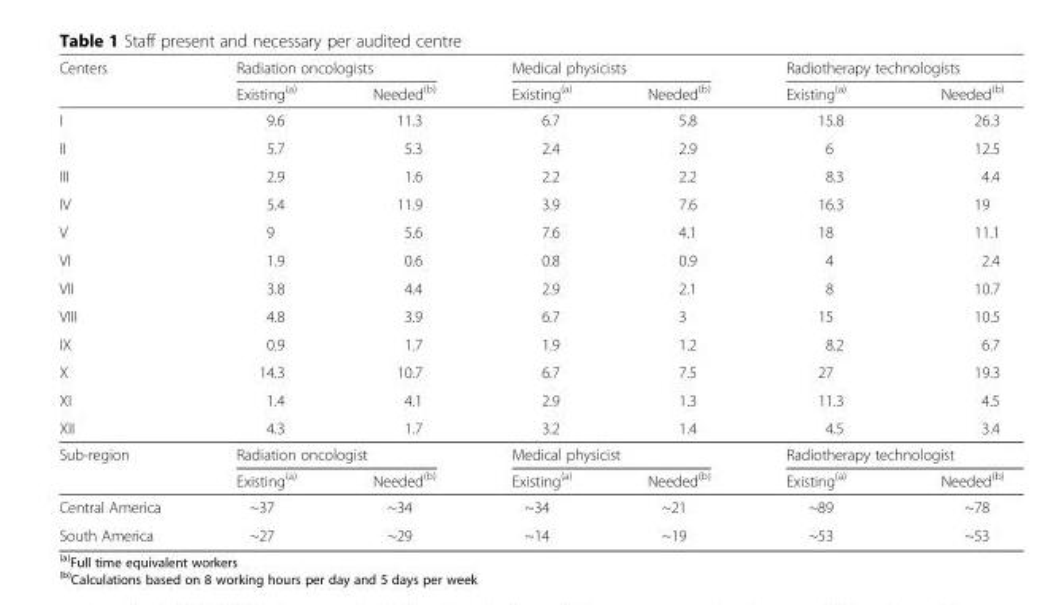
<table><thead><tr><td rowspan="2">Centers</td><td colspan="2">Radiation oncologists</td><td colspan="2">Medical physicists</td><td colspan="2">Radiotherapy technologists</td></tr><tr><td>Existing<sup>(a)</sup></td><td>Needed<sup>(b)</sup></td><td>Existing<sup>(a)</sup></td><td>Needed<sup>(b)</sup></td><td>Existing<sup>(a)</sup></td><td>Needed<sup>(b)</sup></td></tr></thead><tbody><tr><td>I</td><td>9.6</td><td>11.3</td><td>6.7</td><td>5.8</td><td>15.8</td><td>26.3</td></tr><tr><td>II</td><td>5.7</td><td>5.3</td><td>2.4</td><td>2.9</td><td>6</td><td>12.5</td></tr><tr><td>III</td><td>2.9</td><td>1.6</td><td>2.2</td><td>2.2</td><td>8.3</td><td>4.4</td></tr><tr><td>IV</td><td>5.4</td><td>11.9</td><td>3.9</td><td>7.6</td><td>16.3</td><td>19</td></tr><tr><td>V</td><td>9</td><td>5.6</td><td>7.6</td><td>4.1</td><td>18</td><td>11.1</td></tr><tr><td>VI</td><td>1.9</td><td>0.6</td><td>0.8</td><td>0.9</td><td>4</td><td>2.4</td></tr><tr><td>VII</td><td>3.8</td><td>4.4</td><td>2.9</td><td>2.1</td><td>8</td><td>10.7</td></tr><tr><td>VIII</td><td>4.8</td><td>3.9</td><td>6.7</td><td>3</td><td>15</td><td>10.5</td></tr><tr><td>IX</td><td>0.9</td><td>1.7</td><td>1.9</td><td>1.2</td><td>8.2</td><td>6.7</td></tr><tr><td>X</td><td>14.3</td><td>10.7</td><td>6.7</td><td>7.5</td><td>27</td><td>19.3</td></tr><tr><td>XI</td><td>1.4</td><td>4.1</td><td>2.9</td><td>1.3</td><td>11.3</td><td>4.5</td></tr><tr><td>XII</td><td>4.3</td><td>1.7</td><td>3.2</td><td>1.4</td><td>4.5</td><td>3.4</td></tr><tr><td rowspan="2">Sub-region</td><td colspan="2">Radiation oncologist</td><td colspan="2">Medical physicist</td><td colspan="2">Radiotherapy technologist</td></tr><tr><td>Existing<sup>(a)</sup></td><td>Needed<sup>(b)</sup></td><td>Existing<sup>(a)</sup></td><td>Needed<sup>(b)</sup></td><td>Existing<sup>(a)</sup></td><td>Needed<sup>(b)</sup></td></tr><tr><td>Central America</td><td>~37</td><td>~34</td><td>~34</td><td>~21</td><td>~89</td><td>~78</td></tr><tr><td>South America</td><td>~27</td><td>~29</td><td>~14</td><td>~19</td><td>~53</td><td>~53</td></tr></tbody></table>